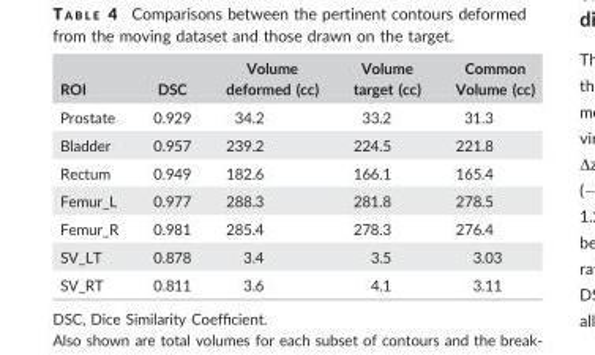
<table><thead><tr><td>ROI</td><td>DSC</td><td>Volume deformed (cc)</td><td>Volume target (cc)</td><td>Common Volume (cc)</td></tr></thead><tbody><tr><td>Prostate</td><td>0.929</td><td>34.2</td><td>33.2</td><td>31.3</td></tr><tr><td>Bladder</td><td>0.957</td><td>239.2</td><td>224.5</td><td>221.8</td></tr><tr><td>Rectum</td><td>0.949</td><td>182.6</td><td>166.1</td><td>165.4</td></tr><tr><td>Femur_L</td><td>0.977</td><td>288.3</td><td>281.8</td><td>278.5</td></tr><tr><td>Femur_R</td><td>0.981</td><td>285.4</td><td>278.3</td><td>276.4</td></tr><tr><td>SV_LT</td><td>0.878</td><td>3.4</td><td>3.5</td><td>3.03</td></tr><tr><td>SV_RT</td><td>0.811</td><td>3.6</td><td>4.1</td><td>3.11</td></tr></tbody></table>